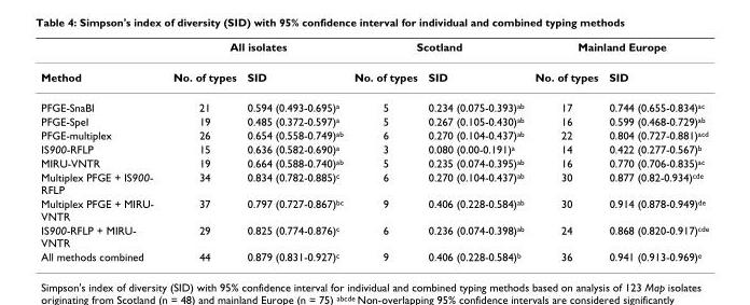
<table><thead><tr><td rowspan="2">Method</td><td colspan="2">All isolates</td><td colspan="2">Scotland</td><td colspan="2">Mainland Europe</td></tr><tr><td>No. of types</td><td>SID</td><td>No. of types</td><td>SID</td><td>No. of types</td><td>SID</td></tr></thead><tbody><tr><td>PFGE-SnaBI</td><td>21</td><td>0.594 (0.493-0.695)<sup>a</sup></td><td>5</td><td>0.234 (0.075-0.393)<sup>ab</sup></td><td>17</td><td>0.744 (0.655-0.834)<sup>ac</sup></td></tr><tr><td>PFGE-SpeI</td><td>19</td><td>0.485 (0.372-0.597)<sup>a</sup></td><td>5</td><td>0.267 (0.105-0.430)<sup>ab</sup></td><td>16</td><td>0.599 (0.468-0.729)<sup>ab</sup></td></tr><tr><td>PFGE-multiplex</td><td>26</td><td>0.654 (0.558-0.749)<sup>ab</sup></td><td>6</td><td>0.270 (0.104-0.437)<sup>ab</sup></td><td>22</td><td>0.804 (0.727-0.881)<sup>acd</sup></td></tr><tr><td>IS900-RFLP</td><td>15</td><td>0.636 (0.582-0.690)<sup>a</sup></td><td>3</td><td>0.080 (0.00-0.191)<sup>a</sup></td><td>14</td><td>0.422 (0.277-0.567)<sup>b</sup></td></tr><tr><td>MIRU-VNTR</td><td>19</td><td>0.664 (0.588-0.740)<sup>ab</sup></td><td>5</td><td>0.235 (0.074-0.395)<sup>ab</sup></td><td>16</td><td>0.770 (0.706-0.835)<sup>ac</sup></td></tr><tr><td>Multiplex PFGE + IS900- RFLP</td><td>34</td><td>0.834 (0.782-0.885)<sup>c</sup></td><td>6</td><td>0.270 (0.104-0.437)<sup>ab</sup></td><td>30</td><td>0.877 (0.82-0.934)<sup>cde</sup></td></tr><tr><td>Multiplex PFGE + MIRU- VNTR</td><td>37</td><td>0.797 (0.727-0.867)<sup>bc</sup></td><td>9</td><td>0.406 (0.228-0.584)<sup>ab</sup></td><td>30</td><td>0.914 (0.878-0.949)<sup>de</sup></td></tr><tr><td>IS900-RFLP + MIRU- VNTR</td><td>29</td><td>0.825 (0.774-0.876)<sup>c</sup></td><td>6</td><td>0.236 (0.074-0.398)<sup>ab</sup></td><td>24</td><td>0.868 (0.820-0.917)<sup>cde</sup></td></tr><tr><td>All methods combined</td><td>44</td><td>0.879 (0.831-0.927)<sup>c</sup></td><td>9</td><td>0.406 (0.228-0.584)<sup>b</sup></td><td>36</td><td>0.941 (0.913-0.969)<sup>e</sup></td></tr></tbody></table>